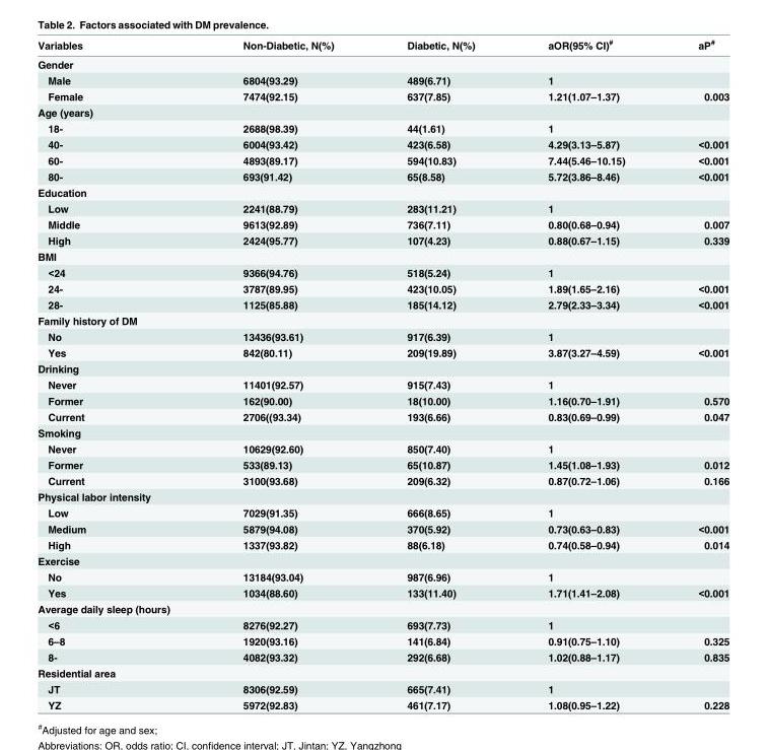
<table><thead><tr><td>Variables</td><td>Non-Diabetic, N(%)</td><td>Diabetic, N(%)</td><td>aOR(95% CI)<sup>#</sup></td><td>aP<sup>#</sup></td></tr></thead><tbody><tr><td colspan="5">Gender</td></tr><tr><td>Male</td><td>6804(93.29)</td><td>489(6.71)</td><td>1</td><td></td></tr><tr><td>Female</td><td>7474(92.15)</td><td>637(7.85)</td><td>1.21(1.07–1.37)</td><td>0.003</td></tr><tr><td colspan="5">Age (years)</td></tr><tr><td>18-</td><td>2688(98.39)</td><td>44(1.61)</td><td>1</td><td></td></tr><tr><td>40-</td><td>6004(93.42)</td><td>423(6.58)</td><td>4.29(3.13–5.87)</td><td>&lt;0.001</td></tr><tr><td>60-</td><td>4893(89.17)</td><td>594(10.83)</td><td>7.44(5.46–10.15)</td><td>&lt;0.001</td></tr><tr><td>80-</td><td>693(91.42)</td><td>65(8.58)</td><td>5.72(3.86–8.46)</td><td>&lt;0.001</td></tr><tr><td colspan="5">Education</td></tr><tr><td>Low</td><td>2241(88.79)</td><td>283(11.21)</td><td>1</td><td></td></tr><tr><td>Middle</td><td>9613(92.89)</td><td>736(7.11)</td><td>0.80(0.68–0.94)</td><td>0.007</td></tr><tr><td>High</td><td>2424(95.77)</td><td>107(4.23)</td><td>0.88(0.67–1.15)</td><td>0.339</td></tr><tr><td colspan="5">BMI</td></tr><tr><td>&lt;24</td><td>9366(94.76)</td><td>518(5.24)</td><td>1</td><td></td></tr><tr><td>24-</td><td>3787(89.95)</td><td>423(10.05)</td><td>1.89(1.65–2.16)</td><td>&lt;0.001</td></tr><tr><td>28-</td><td>1125(85.88)</td><td>185(14.12)</td><td>2.79(2.33–3.34)</td><td>&lt;0.001</td></tr><tr><td colspan="5">Family history of DM</td></tr><tr><td>No</td><td>13436(93.61)</td><td>917(6.39)</td><td>1</td><td></td></tr><tr><td>Yes</td><td>842(80.11)</td><td>209(19.89)</td><td>3.87(3.27–4.59)</td><td>&lt;0.001</td></tr><tr><td colspan="5">Drinking</td></tr><tr><td>Never</td><td>11401(92.57)</td><td>915(7.43)</td><td>1</td><td></td></tr><tr><td>Former</td><td>162(90.00)</td><td>18(10.00)</td><td>1.16(0.70–1.91)</td><td>0.570</td></tr><tr><td>Current</td><td>2706((93.34)</td><td>193(6.66)</td><td>0.83(0.69–0.99)</td><td>0.047</td></tr><tr><td colspan="5">Smoking</td></tr><tr><td>Never</td><td>10629(92.60)</td><td>850(7.40)</td><td>1</td><td></td></tr><tr><td>Former</td><td>533(89.13)</td><td>65(10.87)</td><td>1.45(1.08–1.93)</td><td>0.012</td></tr><tr><td>Current</td><td>3100(93.68)</td><td>209(6.32)</td><td>0.87(0.72–1.06)</td><td>0.166</td></tr><tr><td colspan="5">Physical labor intensity</td></tr><tr><td>Low</td><td>7029(91.35)</td><td>666(8.65)</td><td>1</td><td></td></tr><tr><td>Medium</td><td>5879(94.08)</td><td>370(5.92)</td><td>0.73(0.63–0.83)</td><td>&lt;0.001</td></tr><tr><td>High</td><td>1337(93.82)</td><td>88(6.18)</td><td>0.74(0.58–0.94)</td><td>0.014</td></tr><tr><td colspan="5">Exercise</td></tr><tr><td>No</td><td>13184(93.04)</td><td>987(6.96)</td><td>1</td><td></td></tr><tr><td>Yes</td><td>1034(88.60)</td><td>133(11.40)</td><td>1.71(1.41–2.08)</td><td>&lt;0.001</td></tr><tr><td colspan="5">Average daily sleep (hours)</td></tr><tr><td>&lt;6</td><td>8276(92.27)</td><td>693(7.73)</td><td>1</td><td></td></tr><tr><td>6–8</td><td>1920(93.16)</td><td>141(6.84)</td><td>0.91(0.75–1.10)</td><td>0.325</td></tr><tr><td>8-</td><td>4082(93.32)</td><td>292(6.68)</td><td>1.02(0.88–1.17)</td><td>0.835</td></tr><tr><td colspan="5">Residential area</td></tr><tr><td>JT</td><td>8306(92.59)</td><td>665(7.41)</td><td>1</td><td></td></tr><tr><td>YZ</td><td>5972(92.83)</td><td>461(7.17)</td><td>1.08(0.95–1.22)</td><td>0.228</td></tr></tbody></table>